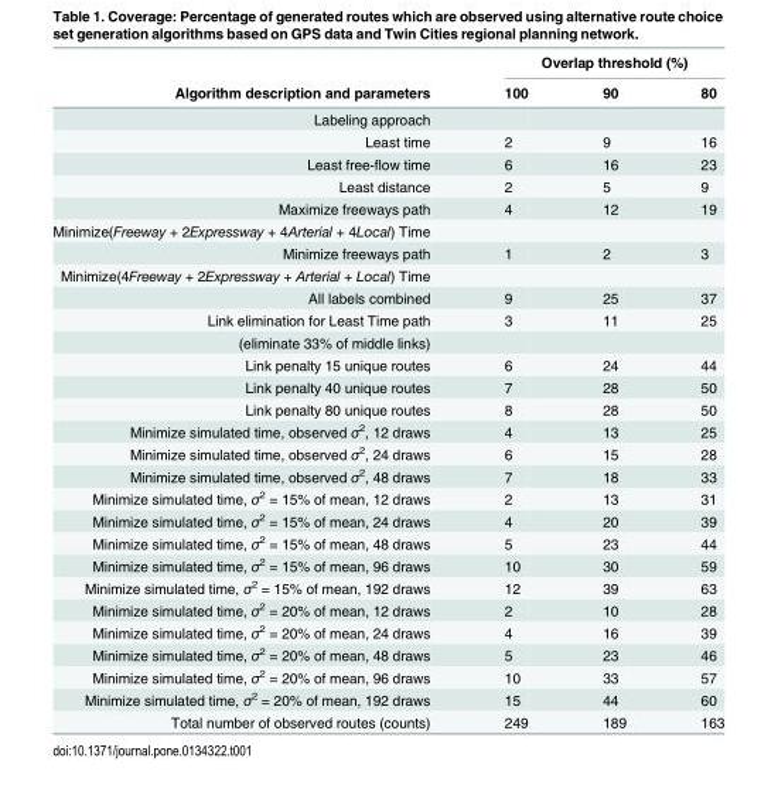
<table><thead><tr><td rowspan="2">Algorithm description and parameters</td><td colspan="3">Overlap threshold (%)</td></tr><tr><td>100</td><td>90</td><td>80</td></tr></thead><tbody><tr><td colspan="4">Labeling approach</td></tr><tr><td>Least time</td><td>2</td><td>9</td><td>16</td></tr><tr><td>Least free-flow time</td><td>6</td><td>16</td><td>23</td></tr><tr><td>Least distance</td><td>2</td><td>5</td><td>9</td></tr><tr><td>Maximize freeways path</td><td>4</td><td>12</td><td>19</td></tr><tr><td colspan="4">Minimize(Freeway + 2Expressway + 4Arterial + 4Local) Time</td></tr><tr><td>Minimize freeways path</td><td>1</td><td>2</td><td>3</td></tr><tr><td colspan="4">Minimize(4Freeway + 2Expressway + Arterial + Local) Time</td></tr><tr><td>All labels combined</td><td>9</td><td>25</td><td>37</td></tr><tr><td>Link elimination for Least Time path</td><td>3</td><td>11</td><td>25</td></tr><tr><td colspan="4">(eliminate 33% of middle links)</td></tr><tr><td>Link penalty 15 unique routes</td><td>6</td><td>24</td><td>44</td></tr><tr><td>Link penalty 40 unique routes</td><td>7</td><td>28</td><td>50</td></tr><tr><td>Link penalty 80 unique routes</td><td>8</td><td>28</td><td>50</td></tr><tr><td>Minimize simulated time, observed σ<sup>2</sup>, 12 draws</td><td>4</td><td>13</td><td>25</td></tr><tr><td>Minimize simulated time, observed σ<sup>2</sup>, 24 draws</td><td>6</td><td>15</td><td>28</td></tr><tr><td>Minimize simulated time, observed σ<sup>2</sup>, 48 draws</td><td>7</td><td>18</td><td>33</td></tr><tr><td>Minimize simulated time, σ<sup>2</sup> = 15% of mean, 12 draws</td><td>2</td><td>13</td><td>31</td></tr><tr><td>Minimize simulated time, σ<sup>2</sup> = 15% of mean, 24 draws</td><td>4</td><td>20</td><td>39</td></tr><tr><td>Minimize simulated time, σ<sup>2</sup> = 15% of mean, 48 draws</td><td>5</td><td>23</td><td>44</td></tr><tr><td>Minimize simulated time, σ<sup>2</sup> = 15% of mean, 96 draws</td><td>10</td><td>30</td><td>59</td></tr><tr><td>Minimize simulated time, σ<sup>2</sup> = 15% of mean, 192 draws</td><td>12</td><td>39</td><td>63</td></tr><tr><td>Minimize simulated time, σ<sup>2</sup> = 20% of mean, 12 draws</td><td>2</td><td>10</td><td>28</td></tr><tr><td>Minimize simulated time, σ<sup>2</sup> = 20% of mean, 24 draws</td><td>4</td><td>16</td><td>39</td></tr><tr><td>Minimize simulated time, σ<sup>2</sup> = 20% of mean, 48 draws</td><td>5</td><td>23</td><td>46</td></tr><tr><td>Minimize simulated time, σ<sup>2</sup> = 20% of mean, 96 draws</td><td>10</td><td>33</td><td>57</td></tr><tr><td>Minimize simulated time, σ<sup>2</sup> = 20% of mean, 192 draws</td><td>15</td><td>44</td><td>60</td></tr><tr><td>Total number of observed routes (counts)</td><td>249</td><td>189</td><td>163</td></tr></tbody></table>